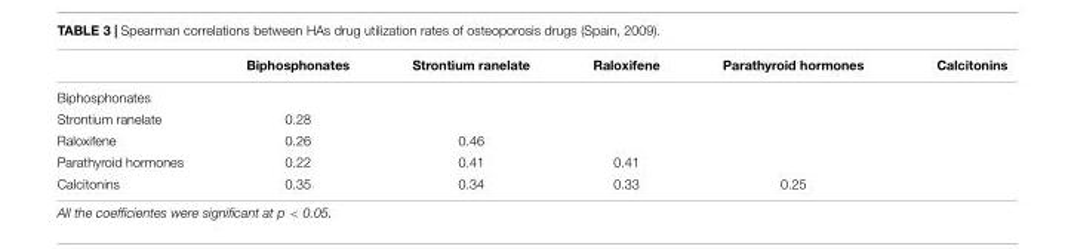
<table><thead><tr><td></td><td>Biphosphonates</td><td>Strontium ranelate</td><td>Raloxifene</td><td>Parathyroid hormones</td><td>Calcitonins</td></tr></thead><tbody><tr><td colspan="6">Biphosphonates</td></tr><tr><td>Strontium ranelate</td><td>0.28</td><td></td><td></td><td></td><td></td></tr><tr><td>Raloxifene</td><td>0.26</td><td>0.46</td><td></td><td></td><td></td></tr><tr><td>Parathyroid hormones</td><td>0.22</td><td>0.41</td><td>0.41</td><td></td><td></td></tr><tr><td>Calcitonins</td><td>0.35</td><td>0.34</td><td>0.33</td><td>0.25</td><td></td></tr></tbody></table>